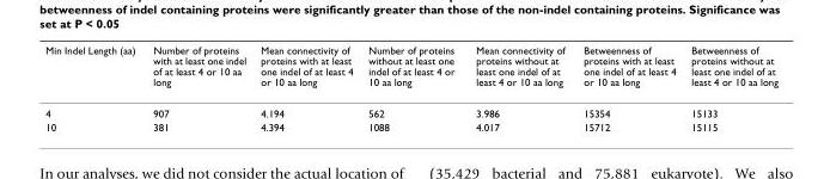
<table><thead><tr><td>Min Indel Length (aa)</td><td>Number of proteins with at least one indel of at least 4 or 10 aa long</td><td>Mean connectivity of proteins with at least one indel of at least 4 or 10 aa long</td><td>Number of proteins without at least one indel of at least 4 or 10 aa long</td><td>Mean connectivity of proteins without at least one indel of at least 4 or 10 aa long</td><td>Betweenness of proteins with at least one indel of at least 4 or 10 aa long</td><td>Betweenness of proteins without at least one indel of at least 4 or 10 aa long</td></tr></thead><tbody><tr><td>4</td><td>907</td><td>4.194</td><td>562</td><td>3.986</td><td>15354</td><td>15133</td></tr><tr><td>10</td><td>381</td><td>4.394</td><td>1088</td><td>4.017</td><td>15712</td><td>15115</td></tr></tbody></table>